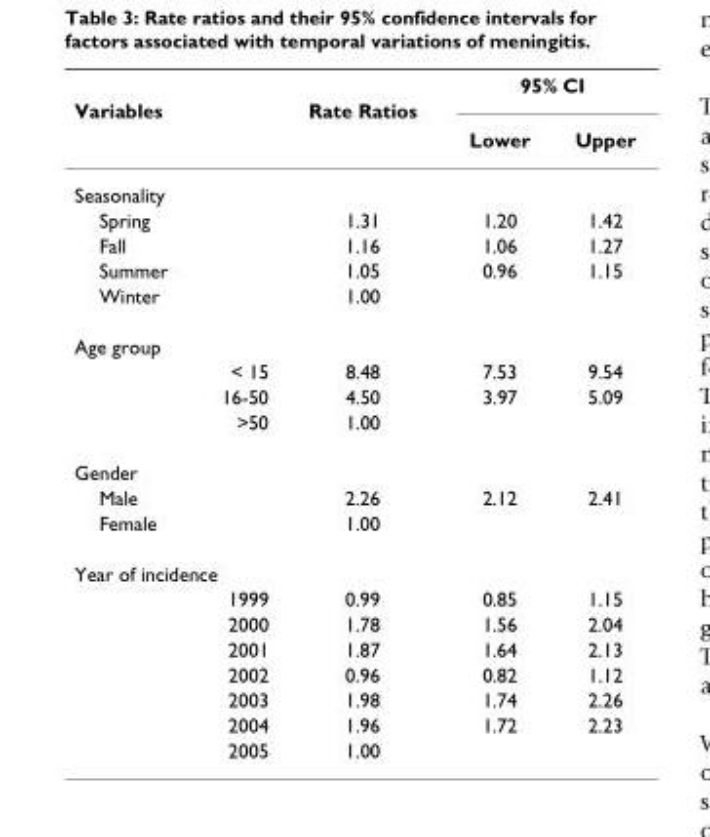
<table><thead><tr><td rowspan="3">Variables</td><td rowspan="3">Rate Ratios</td><td colspan="2">95% CI</td></tr><tr><td rowspan="2">Lower</td><td rowspan="2">Upper</td></tr><tr></tr></thead><tbody><tr><td colspan="4">Seasonality</td></tr><tr><td>Spring</td><td>1.31</td><td>1.20</td><td>1.42</td></tr><tr><td>Fall</td><td>1.16</td><td>1.06</td><td>1.27</td></tr><tr><td>Summer</td><td>1.05</td><td>0.96</td><td>1.15</td></tr><tr><td>Winter</td><td>1.00</td><td></td><td></td></tr><tr><td colspan="4">Age group</td></tr><tr><td>&lt; 15</td><td>8.48</td><td>7.53</td><td>9.54</td></tr><tr><td>16-50</td><td>4.50</td><td>3.97</td><td>5.09</td></tr><tr><td>&gt;50</td><td>1.00</td><td></td><td></td></tr><tr><td colspan="4">Gender</td></tr><tr><td>Male</td><td>2.26</td><td>2.12</td><td>2.41</td></tr><tr><td>Female</td><td>1.00</td><td></td><td></td></tr><tr><td colspan="4">Year of incidence</td></tr><tr><td>1999</td><td>0.99</td><td>0.85</td><td>1.15</td></tr><tr><td>2000</td><td>1.78</td><td>1.56</td><td>2.04</td></tr><tr><td>2001</td><td>1.87</td><td>1.64</td><td>2.13</td></tr><tr><td>2002</td><td>0.96</td><td>0.82</td><td>1.12</td></tr><tr><td>2003</td><td>1.98</td><td>1.74</td><td>2.26</td></tr><tr><td>2004</td><td>1.96</td><td>1.72</td><td>2.23</td></tr><tr><td>2005</td><td>1.00</td><td></td><td></td></tr></tbody></table>